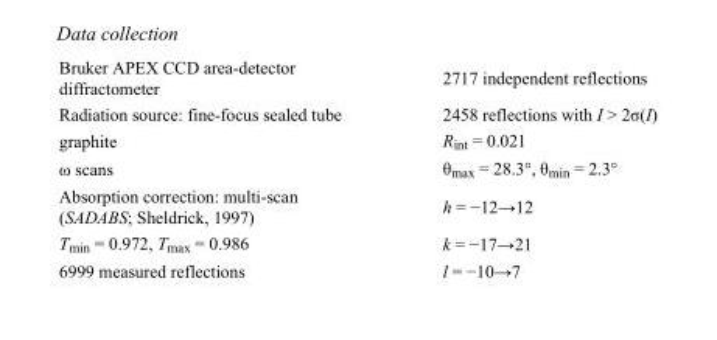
<table><tbody><tr><td>Bruker APEX CCD area-detector diffractometer</td><td>2717 independent reflections</td></tr><tr><td>Radiation source: fine-focus sealed tube</td><td>2458 reflections with I &gt; 2σ(I)</td></tr><tr><td>graphite</td><td>R<sub>int</sub> = 0.021</td></tr><tr><td>ω scans</td><td>θ<sub>max</sub> = 28.3°, θ<sub>min</sub> = 2.3°</td></tr><tr><td>Absorption correction: multi-scan (SADABS; Sheldrick, 1997)</td><td>h = −12→12</td></tr><tr><td>T<sub>min</sub> = 0.972, T<sub>max</sub> = 0.986</td><td>k = −17→21</td></tr><tr><td>6999 measured reflections</td><td>l = −10→7</td></tr></tbody></table>